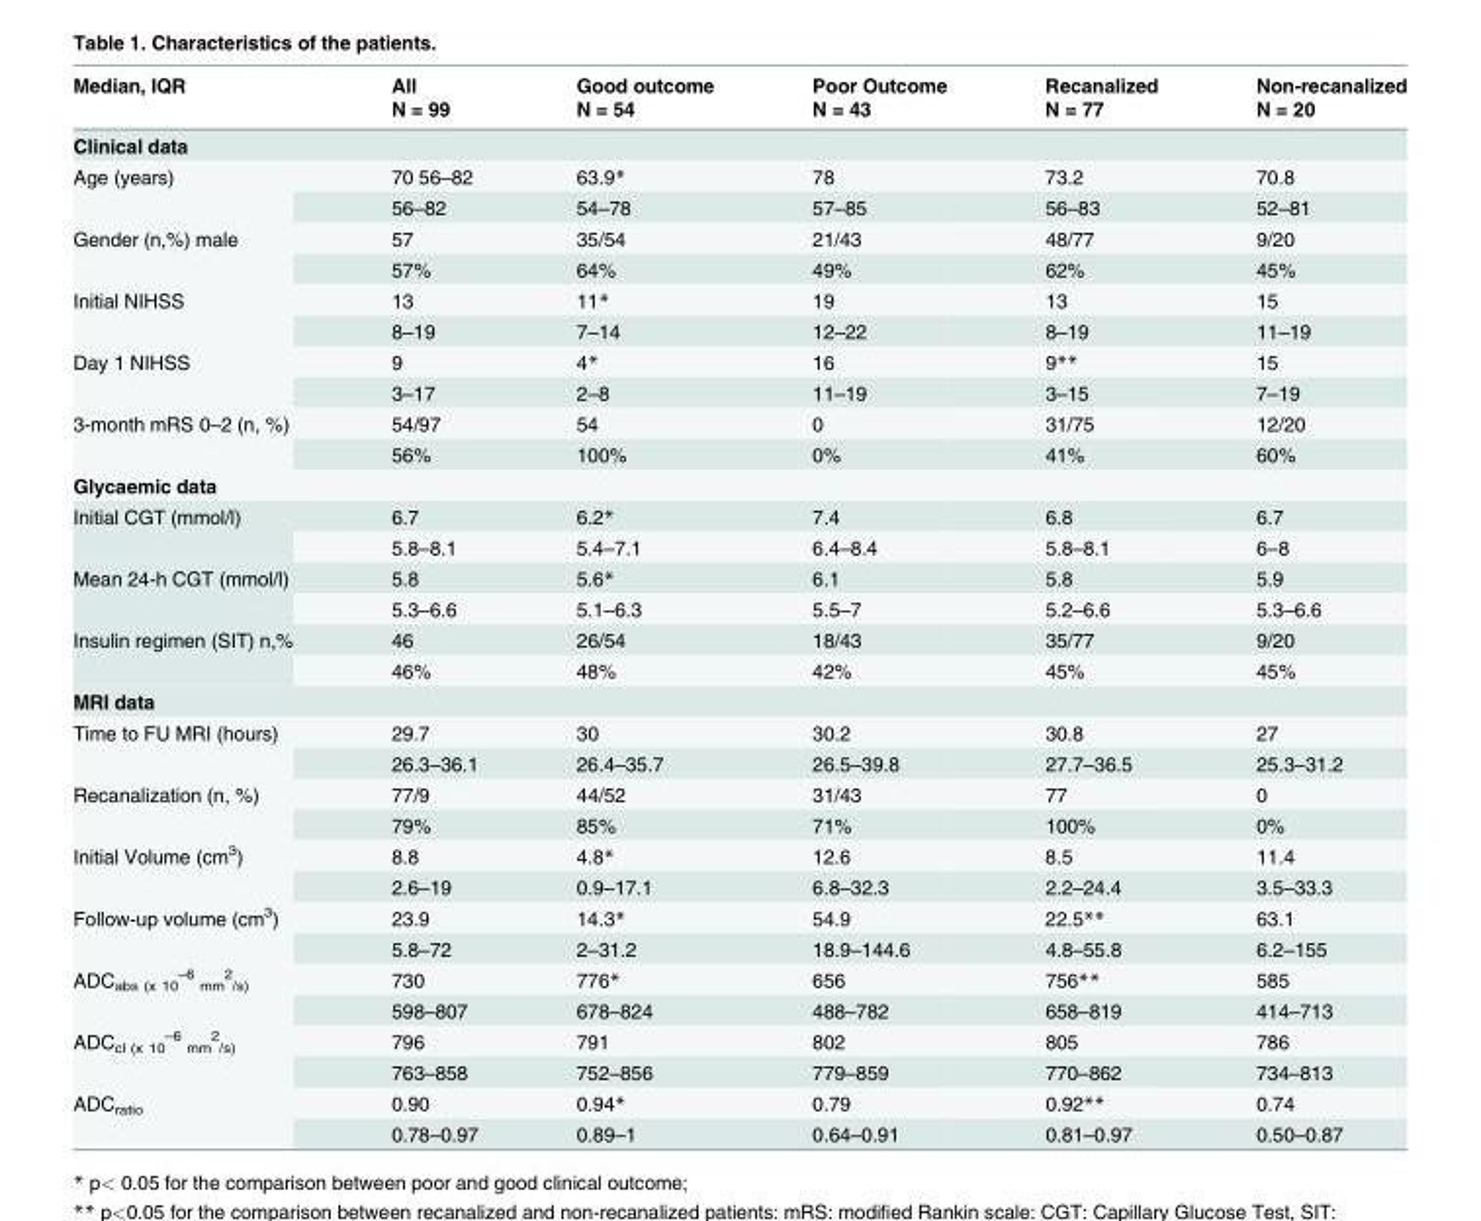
<table><thead><tr><td rowspan="2">Median, IQR</td><td rowspan="2">All N = 99</td><td rowspan="2">Good outcome N = 54</td><td rowspan="2">Poor Outcome N = 43</td><td rowspan="2">Recanalized N = 77</td><td rowspan="2">Non-recanalized N = 20</td></tr><tr></tr></thead><tbody><tr><td colspan="6">Clinical data</td></tr><tr><td rowspan="2">Age (years)</td><td>70 56–82</td><td>63.9*</td><td>78</td><td>73.2</td><td>70.8</td></tr><tr><td>56–82</td><td>54–78</td><td>57–85</td><td>56–83</td><td>52–81</td></tr><tr><td rowspan="2">Gender (n,%) male</td><td>57</td><td>35/54</td><td>21/43</td><td>48/77</td><td>9/20</td></tr><tr><td>57%</td><td>64%</td><td>49%</td><td>62%</td><td>45%</td></tr><tr><td rowspan="2">Initial NIHSS</td><td>13</td><td>11*</td><td>19</td><td>13</td><td>15</td></tr><tr><td>8–19</td><td>7–14</td><td>12–22</td><td>8–19</td><td>11–19</td></tr><tr><td rowspan="2">Day 1 NIHSS</td><td>9</td><td>4*</td><td>16</td><td>9**</td><td>15</td></tr><tr><td>3–17</td><td>2–8</td><td>11–19</td><td>3–15</td><td>7–19</td></tr><tr><td rowspan="2">3-month mRS 0–2 (n, %)</td><td>54/97</td><td>54</td><td>0</td><td>31/75</td><td>12/20</td></tr><tr><td>56%</td><td>100%</td><td>0%</td><td>41%</td><td>60%</td></tr><tr><td colspan="6">Glycaemic data</td></tr><tr><td rowspan="2">Initial CGT (mmol/l)</td><td>6.7</td><td>6.2*</td><td>7.4</td><td>6.8</td><td>6.7</td></tr><tr><td>5.8–8.1</td><td>5.4–7.1</td><td>6.4–8.4</td><td>5.8–8.1</td><td>6–8</td></tr><tr><td rowspan="2">Mean 24-h CGT (mmol/l)</td><td>5.8</td><td>5.6*</td><td>6.1</td><td>5.8</td><td>5.9</td></tr><tr><td>5.3–6.6</td><td>5.1–6.3</td><td>5.5–7</td><td>5.2–6.6</td><td>5.3–6.6</td></tr><tr><td rowspan="2">Insulin regimen (SIT) n,%</td><td>46</td><td>26/54</td><td>18/43</td><td>35/77</td><td>9/20</td></tr><tr><td>46%</td><td>48%</td><td>42%</td><td>45%</td><td>45%</td></tr><tr><td colspan="6">MRI data</td></tr><tr><td rowspan="2">Time to FU MRI (hours)</td><td>29.7</td><td>30</td><td>30.2</td><td>30.8</td><td>27</td></tr><tr><td>26.3–36.1</td><td>26.4–35.7</td><td>26.5–39.8</td><td>27.7–36.5</td><td>25.3–31.2</td></tr><tr><td rowspan="2">Recanalization (n, %)</td><td>77/9</td><td>44/52</td><td>31/43</td><td>77</td><td>0</td></tr><tr><td>79%</td><td>85%</td><td>71%</td><td>100%</td><td>0%</td></tr><tr><td rowspan="2">Initial Volume (cm<sup>3</sup>)</td><td>8.8</td><td>4.8*</td><td>12.6</td><td>8.5</td><td>11.4</td></tr><tr><td>2.6–19</td><td>0.9–17.1</td><td>6.8–32.3</td><td>2.2–24.4</td><td>3.5–33.3</td></tr><tr><td rowspan="2">Follow-up volume (cm<sup>3</sup>)</td><td>23.9</td><td>14.3*</td><td>54.9</td><td>22.5**</td><td>63.1</td></tr><tr><td>5.8–72</td><td>2–31.2</td><td>18.9–144.6</td><td>4.8–55.8</td><td>6.2–155</td></tr><tr><td rowspan="2">ADC<sub>abs (x 10</sub> <sup>–6</sup> <sub>mm</sub> <sup>2</sup> <sub>/s)</sub></td><td>730</td><td>776*</td><td>656</td><td>756**</td><td>585</td></tr><tr><td>598–807</td><td>678–824</td><td>488–782</td><td>658–819</td><td>414–713</td></tr><tr><td rowspan="2">ADC<sub>cl (x 10</sub> <sup>–6</sup> <sub>mm</sub> <sup>2</sup> <sub>/s)</sub></td><td>796</td><td>791</td><td>802</td><td>805</td><td>786</td></tr><tr><td>763–858</td><td>752–856</td><td>779–859</td><td>770–862</td><td>734–813</td></tr><tr><td rowspan="2">ADC<sub>ratio</sub></td><td>0.90</td><td>0.94*</td><td>0.79</td><td>0.92**</td><td>0.74</td></tr><tr><td>0.78–0.97</td><td>0.89–1</td><td>0.64–0.91</td><td>0.81–0.97</td><td>0.50–0.87</td></tr></tbody></table>